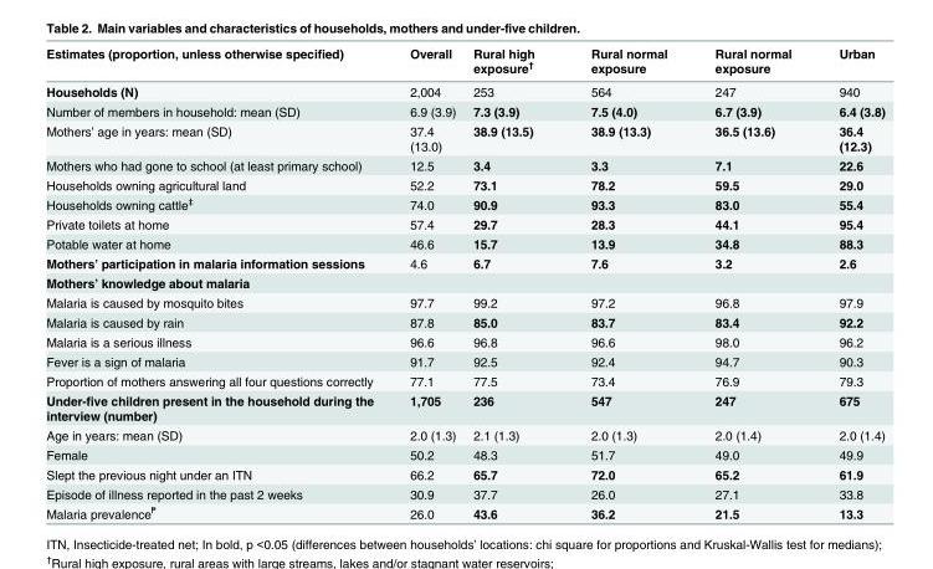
<table><thead><tr><td>Estimates (proportion, unless otherwise specified)</td><td>Overall</td><td>Rural high exposure<sup>†</sup></td><td>Rural normal exposure</td><td>Rural normal exposure</td><td>Urban</td></tr></thead><tbody><tr><td>Households (N)</td><td>2,004</td><td>253</td><td>564</td><td>247</td><td>940</td></tr><tr><td>Number of members in household: mean (SD)</td><td>6.9 (3.9)</td><td>7.3 (3.9)</td><td>7.5 (4.0)</td><td>6.7 (3.9)</td><td>6.4 (3.8)</td></tr><tr><td>Mothers’ age in years: mean (SD)</td><td>37.4 (13.0)</td><td>38.9 (13.5)</td><td>38.9 (13.3)</td><td>36.5 (13.6)</td><td>36.4 (12.3)</td></tr><tr><td>Mothers who had gone to school (at least primary school)</td><td>12.5</td><td>3.4</td><td>3.3</td><td>7.1</td><td>22.6</td></tr><tr><td>Households owning agricultural land</td><td>52.2</td><td>73.1</td><td>78.2</td><td>59.5</td><td>29.0</td></tr><tr><td>Households owning cattle<sup>‡</sup></td><td>74.0</td><td>90.9</td><td>93.3</td><td>83.0</td><td>55.4</td></tr><tr><td>Private toilets at home</td><td>57.4</td><td>29.7</td><td>28.3</td><td>44.1</td><td>95.4</td></tr><tr><td>Potable water at home</td><td>46.6</td><td>15.7</td><td>13.9</td><td>34.8</td><td>88.3</td></tr><tr><td>Mothers’ participation in malaria information sessions</td><td>4.6</td><td>6.7</td><td>7.6</td><td>3.2</td><td>2.6</td></tr><tr><td colspan="6">Mothers’ knowledge about malaria</td></tr><tr><td>Malaria is caused by mosquito bites</td><td>97.7</td><td>99.2</td><td>97.2</td><td>96.8</td><td>97.9</td></tr><tr><td>Malaria is caused by rain</td><td>87.8</td><td>85.0</td><td>83.7</td><td>83.4</td><td>92.2</td></tr><tr><td>Malaria is a serious illness</td><td>96.6</td><td>96.8</td><td>96.6</td><td>98.0</td><td>96.2</td></tr><tr><td>Fever is a sign of malaria</td><td>91.7</td><td>92.5</td><td>92.4</td><td>94.7</td><td>90.3</td></tr><tr><td>Proportion of mothers answering all four questions correctly</td><td>77.1</td><td>77.5</td><td>73.4</td><td>76.9</td><td>79.3</td></tr><tr><td>Under-five children present in the household during the interview (number)</td><td>1,705</td><td>236</td><td>547</td><td>247</td><td>675</td></tr><tr><td>Age in years: mean (SD)</td><td>2.0 (1.3)</td><td>2.1 (1.3)</td><td>2.0 (1.3)</td><td>2.0 (1.4)</td><td>2.0 (1.4)</td></tr><tr><td>Female</td><td>50.2</td><td>48.3</td><td>51.7</td><td>49.0</td><td>49.9</td></tr><tr><td>Slept the previous night under an ITN</td><td>66.2</td><td>65.7</td><td>72.0</td><td>65.2</td><td>61.9</td></tr><tr><td>Episode of illness reported in the past 2 weeks</td><td>30.9</td><td>37.7</td><td>26.0</td><td>27.1</td><td>33.8</td></tr><tr><td>Malaria prevalence<sup>₱</sup></td><td>26.0</td><td>43.6</td><td>36.2</td><td>21.5</td><td>13.3</td></tr></tbody></table>